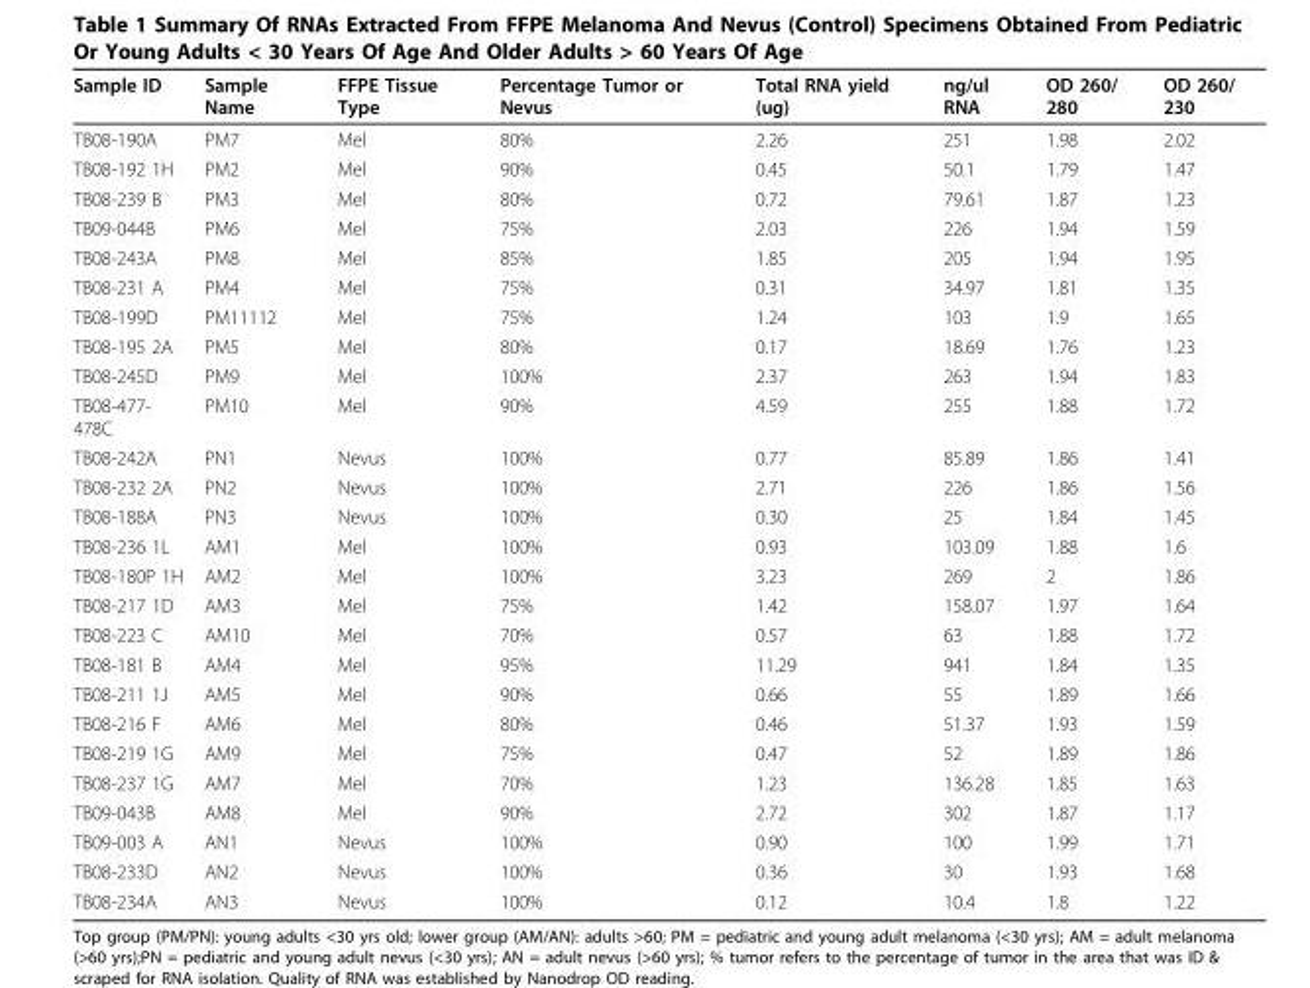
<table><thead><tr><td>Sample ID</td><td>Sample Name</td><td>FFPE Tissue Type</td><td>Percentage Tumor or Nevus</td><td>Total RNA yield (ug)</td><td>ng/ul RNA</td><td>OD 260/ 280</td><td>OD 260/ 230</td></tr></thead><tbody><tr><td>TB08-190A</td><td>PM7</td><td>Mel</td><td>80%</td><td>2.26</td><td>251</td><td>1.98</td><td>2.02</td></tr><tr><td>TB08-192 1H</td><td>PM2</td><td>Mel</td><td>90%</td><td>0.45</td><td>50.1</td><td>1.79</td><td>1.47</td></tr><tr><td>TB08-239 B</td><td>PM3</td><td>Mel</td><td>80%</td><td>0.72</td><td>79.61</td><td>1.87</td><td>1.23</td></tr><tr><td>TB09-044B</td><td>PM6</td><td>Mel</td><td>75%</td><td>2.03</td><td>226</td><td>1.94</td><td>1.59</td></tr><tr><td>TB08-243A</td><td>PM8</td><td>Mel</td><td>85%</td><td>1.85</td><td>205</td><td>1.94</td><td>1.95</td></tr><tr><td>TB08-231 A</td><td>PM4</td><td>Mel</td><td>75%</td><td>0.31</td><td>34.97</td><td>1.81</td><td>1.35</td></tr><tr><td>TB08-199D</td><td>PM11112</td><td>Mel</td><td>75%</td><td>1.24</td><td>103</td><td>1.9</td><td>1.65</td></tr><tr><td>TB08-195 2A</td><td>PM5</td><td>Mel</td><td>80%</td><td>0.17</td><td>18.69</td><td>1.76</td><td>1.23</td></tr><tr><td>TB08-245D</td><td>PM9</td><td>Mel</td><td>100%</td><td>2.37</td><td>263</td><td>1.94</td><td>1.83</td></tr><tr><td>TB08-477- 478C</td><td>PM10</td><td>Mel</td><td>90%</td><td>4.59</td><td>255</td><td>1.88</td><td>1.72</td></tr><tr><td>TB08-242A</td><td>PN1</td><td>Nevus</td><td>100%</td><td>0.77</td><td>85.89</td><td>1.86</td><td>1.41</td></tr><tr><td>TB08-232 2A</td><td>PN2</td><td>Nevus</td><td>100%</td><td>2.71</td><td>226</td><td>1.86</td><td>1.56</td></tr><tr><td>TB08-188A</td><td>PN3</td><td>Nevus</td><td>100%</td><td>0.30</td><td>25</td><td>1.84</td><td>1.45</td></tr><tr><td>TB08-236 1L</td><td>AM1</td><td>Mel</td><td>100%</td><td>0.93</td><td>103.09</td><td>1.88</td><td>1.6</td></tr><tr><td>TB08-180P 1H</td><td>AM2</td><td>Mel</td><td>100%</td><td>3.23</td><td>269</td><td>2</td><td>1.86</td></tr><tr><td>TB08-217 1D</td><td>AM3</td><td>Mel</td><td>75%</td><td>1.42</td><td>158.07</td><td>1.97</td><td>1.64</td></tr><tr><td>TB08-223 C</td><td>AM10</td><td>Mel</td><td>70%</td><td>0.57</td><td>63</td><td>1.88</td><td>1.72</td></tr><tr><td>TB08-181 B</td><td>AM4</td><td>Mel</td><td>95%</td><td>11.29</td><td>941</td><td>1.84</td><td>1.35</td></tr><tr><td>TB08-211 1J</td><td>AM5</td><td>Mel</td><td>90%</td><td>0.66</td><td>55</td><td>1.89</td><td>1.66</td></tr><tr><td>TB08-216 F</td><td>AM6</td><td>Mel</td><td>80%</td><td>0.46</td><td>51.37</td><td>1.93</td><td>1.59</td></tr><tr><td>TB08-219 1G</td><td>AM9</td><td>Mel</td><td>75%</td><td>0.47</td><td>52</td><td>1.89</td><td>1.86</td></tr><tr><td>TB08-237 1G</td><td>AM7</td><td>Mel</td><td>70%</td><td>1.23</td><td>136.28</td><td>1.85</td><td>1.63</td></tr><tr><td>TB09-043B</td><td>AM8</td><td>Mel</td><td>90%</td><td>2.72</td><td>302</td><td>1.87</td><td>1.17</td></tr><tr><td>TB09-003 A</td><td>AN1</td><td>Nevus</td><td>100%</td><td>0.90</td><td>100</td><td>1.99</td><td>1.71</td></tr><tr><td>TB08-233D</td><td>AN2</td><td>Nevus</td><td>100%</td><td>0.36</td><td>30</td><td>1.93</td><td>1.68</td></tr><tr><td>TB08-234A</td><td>AN3</td><td>Nevus</td><td>100%</td><td>0.12</td><td>10.4</td><td>1.8</td><td>1.22</td></tr></tbody></table>